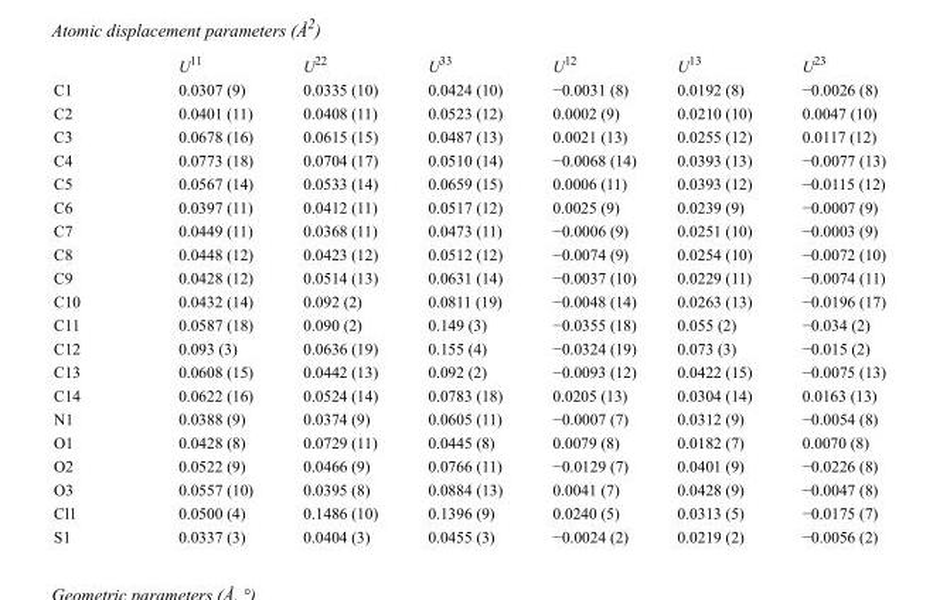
<table><thead><tr><td></td><td>U<sup>11</sup></td><td>U<sup>22</sup></td><td>U<sup>33</sup></td><td>U<sup>12</sup></td><td>U<sup>13</sup></td><td>U<sup>23</sup></td></tr></thead><tbody><tr><td>C1</td><td>0.0307 (9)</td><td>0.0335 (10)</td><td>0.0424 (10)</td><td>−0.0031 (8)</td><td>0.0192 (8)</td><td>−0.0026 (8)</td></tr><tr><td>C2</td><td>0.0401 (11)</td><td>0.0408 (11)</td><td>0.0523 (12)</td><td>0.0002 (9)</td><td>0.0210 (10)</td><td>0.0047 (10)</td></tr><tr><td>C3</td><td>0.0678 (16)</td><td>0.0615 (15)</td><td>0.0487 (13)</td><td>0.0021 (13)</td><td>0.0255 (12)</td><td>0.0117 (12)</td></tr><tr><td>C4</td><td>0.0773 (18)</td><td>0.0704 (17)</td><td>0.0510 (14)</td><td>−0.0068 (14)</td><td>0.0393 (13)</td><td>−0.0077 (13)</td></tr><tr><td>C5</td><td>0.0567 (14)</td><td>0.0533 (14)</td><td>0.0659 (15)</td><td>0.0006 (11)</td><td>0.0393 (12)</td><td>−0.0115 (12)</td></tr><tr><td>C6</td><td>0.0397 (11)</td><td>0.0412 (11)</td><td>0.0517 (12)</td><td>0.0025 (9)</td><td>0.0239 (9)</td><td>−0.0007 (9)</td></tr><tr><td>C7</td><td>0.0449 (11)</td><td>0.0368 (11)</td><td>0.0473 (11)</td><td>−0.0006 (9)</td><td>0.0251 (10)</td><td>−0.0003 (9)</td></tr><tr><td>C8</td><td>0.0448 (12)</td><td>0.0423 (12)</td><td>0.0512 (12)</td><td>−0.0074 (9)</td><td>0.0254 (10)</td><td>−0.0072 (10)</td></tr><tr><td>C9</td><td>0.0428 (12)</td><td>0.0514 (13)</td><td>0.0631 (14)</td><td>−0.0037 (10)</td><td>0.0229 (11)</td><td>−0.0074 (11)</td></tr><tr><td>C10</td><td>0.0432 (14)</td><td>0.092 (2)</td><td>0.0811 (19)</td><td>−0.0048 (14)</td><td>0.0263 (13)</td><td>−0.0196 (17)</td></tr><tr><td>C11</td><td>0.0587 (18)</td><td>0.090 (2)</td><td>0.149 (3)</td><td>−0.0355 (18)</td><td>0.055 (2)</td><td>−0.034 (2)</td></tr><tr><td>C12</td><td>0.093 (3)</td><td>0.0636 (19)</td><td>0.155 (4)</td><td>−0.0324 (19)</td><td>0.073 (3)</td><td>−0.015 (2)</td></tr><tr><td>C13</td><td>0.0608 (15)</td><td>0.0442 (13)</td><td>0.092 (2)</td><td>−0.0093 (12)</td><td>0.0422 (15)</td><td>−0.0075 (13)</td></tr><tr><td>C14</td><td>0.0622 (16)</td><td>0.0524 (14)</td><td>0.0783 (18)</td><td>0.0205 (13)</td><td>0.0304 (14)</td><td>0.0163 (13)</td></tr><tr><td>N1</td><td>0.0388 (9)</td><td>0.0374 (9)</td><td>0.0605 (11)</td><td>−0.0007 (7)</td><td>0.0312 (9)</td><td>−0.0054 (8)</td></tr><tr><td>O1</td><td>0.0428 (8)</td><td>0.0729 (11)</td><td>0.0445 (8)</td><td>0.0079 (8)</td><td>0.0182 (7)</td><td>0.0070 (8)</td></tr><tr><td>O2</td><td>0.0522 (9)</td><td>0.0466 (9)</td><td>0.0766 (11)</td><td>−0.0129 (7)</td><td>0.0401 (9)</td><td>−0.0226 (8)</td></tr><tr><td>O3</td><td>0.0557 (10)</td><td>0.0395 (8)</td><td>0.0884 (13)</td><td>0.0041 (7)</td><td>0.0428 (9)</td><td>−0.0047 (8)</td></tr><tr><td>Cl1</td><td>0.0500 (4)</td><td>0.1486 (10)</td><td>0.1396 (9)</td><td>0.0240 (5)</td><td>0.0313 (5)</td><td>−0.0175 (7)</td></tr><tr><td>S1</td><td>0.0337 (3)</td><td>0.0404 (3)</td><td>0.0455 (3)</td><td>−0.0024 (2)</td><td>0.0219 (2)</td><td>−0.0056 (2)</td></tr></tbody></table>